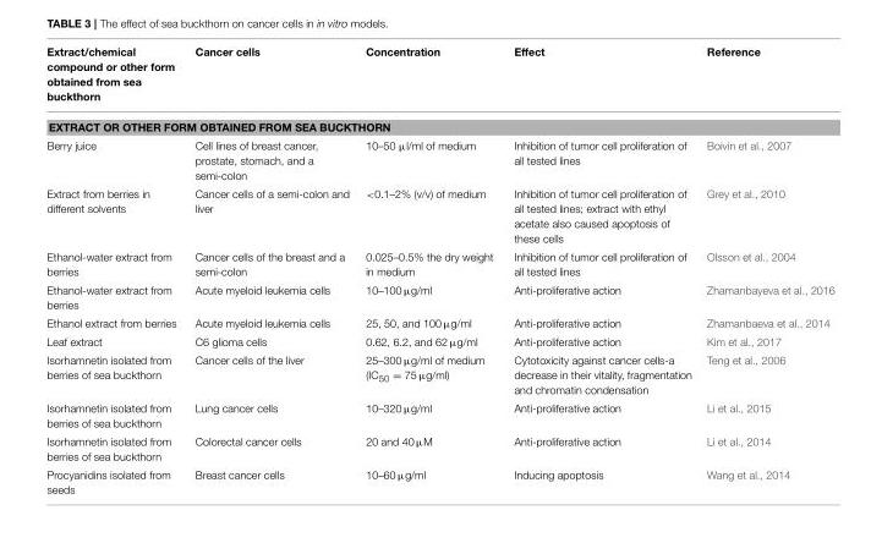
<table><thead><tr><td>Extract/chemical compound or other form obtained from sea buckthorn</td><td>Cancer cells</td><td>Concentration</td><td>Effect</td><td>Reference</td></tr></thead><tbody><tr><td colspan="5">EXTRACT OR OTHER FORM OBTAINED FROM SEA BUCKTHORN</td></tr><tr><td>Berry juice</td><td>Cell lines of breast cancer, prostate, stomach, and a semi-colon</td><td>10–50 µl/ml of medium</td><td>Inhibition of tumor cell proliferation of all tested lines</td><td>Boivin et al., 2007</td></tr><tr><td>Extract from berries in different solvents</td><td>Cancer cells of a semi-colon and liver</td><td>&lt;0.1–2% (v/v) of medium</td><td>Inhibition of tumor cell proliferation of all tested lines; extract with ethyl acetate also caused apoptosis of these cells</td><td>Grey et al., 2010</td></tr><tr><td>Ethanol-water extract from berries</td><td>Cancer cells of the breast and a semi-colon</td><td>0.025–0.5% the dry weight in medium</td><td>Inhibition of tumor cell proliferation of all tested lines</td><td>Olsson et al., 2004</td></tr><tr><td>Ethanol-water extract from berries</td><td>Acute myeloid leukemia cells</td><td>10–100 µg/ml</td><td>Anti-proliferative action</td><td>Zhamanbayeva et al., 2016</td></tr><tr><td>Ethanol extract from berries</td><td>Acute myeloid leukemia cells</td><td>25, 50, and 100 µg/ml</td><td>Anti-proliferative action</td><td>Zhamanbaeva et al., 2014</td></tr><tr><td>Leaf extract</td><td>C6 glioma cells</td><td>0.62, 6.2, and 62 µg/ml</td><td>Anti-proliferative action</td><td>Kim et al., 2017</td></tr><tr><td>Isorhamnetin isolated from berries of sea buckthorn</td><td>Cancer cells of the liver</td><td>25–300 µg/ml of medium (IC<sub>50</sub> = 75 µg/ml)</td><td>Cytotoxicity against cancer cells-a decrease in their vitality, fragmentation and chromatin condensation</td><td>Teng et al., 2006</td></tr><tr><td>Isorhamnetin isolated from berries of sea buckthorn</td><td>Lung cancer cells</td><td>10–320 µg/ml</td><td>Anti-proliferative action</td><td>Li et al., 2015</td></tr><tr><td>Isorhamnetin isolated from berries of sea buckthorn</td><td>Colorectal cancer cells</td><td>20 and 40 µM</td><td>Anti-proliferative action</td><td>Li et al., 2014</td></tr><tr><td>Procyanidins isolated from seeds</td><td>Breast cancer cells</td><td>10–60 µg/ml</td><td>Inducing apoptosis</td><td>Wang et al., 2014</td></tr></tbody></table>